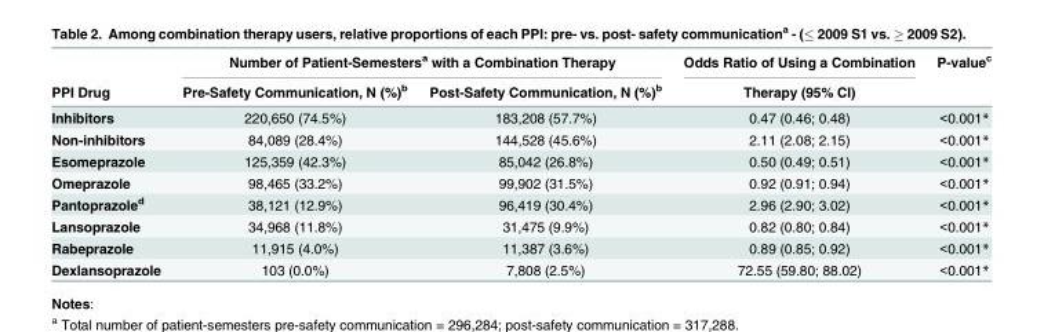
<table><thead><tr><td rowspan="2">PPI Drug</td><td colspan="2">Number of Patient-Semesters<sup>a</sup> with a Combination Therapy</td><td rowspan="2">Odds Ratio of Using a Combination Therapy (95% CI)</td><td rowspan="2">P-value<sup>c</sup></td></tr><tr><td>Pre-Safety Communication, N (%)<sup>b</sup></td><td>Post-Safety Communication, N (%)<sup>b</sup></td></tr></thead><tbody><tr><td>Inhibitors</td><td>220,650 (74.5%)</td><td>183,208 (57.7%)</td><td>0.47 (0.46; 0.48)</td><td>&lt;0.001*</td></tr><tr><td>Non-inhibitors</td><td>84,089 (28.4%)</td><td>144,528 (45.6%)</td><td>2.11 (2.08; 2.15)</td><td>&lt;0.001*</td></tr><tr><td>Esomeprazole</td><td>125,359 (42.3%)</td><td>85,042 (26.8%)</td><td>0.50 (0.49; 0.51)</td><td>&lt;0.001*</td></tr><tr><td>Omeprazole</td><td>98,465 (33.2%)</td><td>99,902 (31.5%)</td><td>0.92 (0.91; 0.94)</td><td>&lt;0.001*</td></tr><tr><td>Pantoprazole<sup>d</sup></td><td>38,121 (12.9%)</td><td>96,419 (30.4%)</td><td>2.96 (2.90; 3.02)</td><td>&lt;0.001*</td></tr><tr><td>Lansoprazole</td><td>34,968 (11.8%)</td><td>31,475 (9.9%)</td><td>0.82 (0.80; 0.84)</td><td>&lt;0.001*</td></tr><tr><td>Rabeprazole</td><td>11,915 (4.0%)</td><td>11,387 (3.6%)</td><td>0.89 (0.85; 0.92)</td><td>&lt;0.001*</td></tr><tr><td>Dexlansoprazole</td><td>103 (0.0%)</td><td>7,808 (2.5%)</td><td>72.55 (59.80; 88.02)</td><td>&lt;0.001*</td></tr></tbody></table>